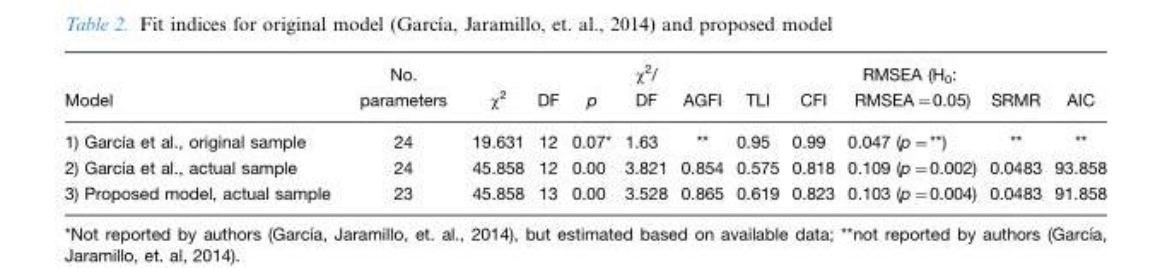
<table><thead><tr><td>Model</td><td>No. parameters</td><td>χ<sup>2</sup></td><td>DF</td><td>p</td><td>χ<sup>2</sup>/ DF</td><td>AGFI</td><td>TLI</td><td>CFI</td><td>RMSEA (H<sub>0</sub>: RMSEA=0.05)</td><td>SRMR</td><td>AIC</td></tr></thead><tbody><tr><td>1) Garcı´a et al., original sample</td><td>24</td><td>19.631</td><td>12</td><td>0.07*</td><td>1.63</td><td>**</td><td>0.95</td><td>0.99</td><td>0.047 (p=**)</td><td>**</td><td>**</td></tr><tr><td>2) Garcı´a et al., actual sample</td><td>24</td><td>45.858</td><td>12</td><td>0.00</td><td>3.821</td><td>0.854</td><td>0.575</td><td>0.818</td><td>0.109 (p=0.002)</td><td>0.0483</td><td>93.858</td></tr><tr><td>3) Proposed model, actual sample</td><td>23</td><td>45.858</td><td>13</td><td>0.00</td><td>3.528</td><td>0.865</td><td>0.619</td><td>0.823</td><td>0.103 (p=0.004)</td><td>0.0483</td><td>91.858</td></tr></tbody></table>